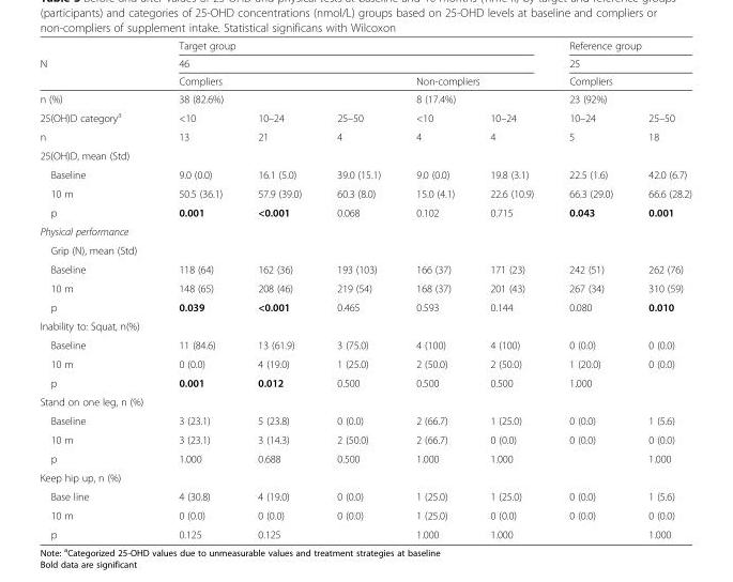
<table><thead><tr><td rowspan="5">N n (%) 25(OH)D categorya</td><td rowspan="2" colspan="5">Target group 46</td><td rowspan="4" colspan="2">Reference group 25 Compliers 23 (92%)</td></tr><tr></tr><tr><td rowspan="2" colspan="3">Compliers 38 (82.6%)</td><td rowspan="2" colspan="2">Non-compliers 8 (17.4%)</td></tr><tr></tr><tr><td>&lt;10</td><td>10–24</td><td>25–50</td><td>&lt;10</td><td>10–24</td><td>10–24</td><td>25–50</td></tr></thead><tbody><tr><td>n</td><td>13</td><td>21</td><td>4</td><td>4</td><td>4</td><td>5</td><td>18</td></tr><tr><td colspan="8">25(OH)D, mean (Std)</td></tr><tr><td>Baseline</td><td>9.0 (0.0)</td><td>16.1 (5.0)</td><td>39.0 (15.1)</td><td>9.0 (0.0)</td><td>19.8 (3.1)</td><td>22.5 (1.6)</td><td>42.0 (6.7)</td></tr><tr><td>10 m</td><td>50.5 (36.1)</td><td>57.9 (39.0)</td><td>60.3 (8.0)</td><td>15.0 (4.1)</td><td>22.6 (10.9)</td><td>66.3 (29.0)</td><td>66.6 (28.2)</td></tr><tr><td>p</td><td>0.001</td><td>&lt;0.001</td><td>0.068</td><td>0.102</td><td>0.715</td><td>0.043</td><td>0.001</td></tr><tr><td colspan="8">Physical performance</td></tr><tr><td colspan="8">Grip (N), mean (Std)</td></tr><tr><td>Baseline</td><td>118 (64)</td><td>162 (36)</td><td>193 (103)</td><td>166 (37)</td><td>171 (23)</td><td>242 (51)</td><td>262 (76)</td></tr><tr><td>10 m</td><td>148 (65)</td><td>208 (46)</td><td>219 (54)</td><td>168 (37)</td><td>201 (43)</td><td>267 (34)</td><td>310 (59)</td></tr><tr><td>p</td><td>0.039</td><td>&lt;0.001</td><td>0.465</td><td>0.593</td><td>0.144</td><td>0.080</td><td>0.010</td></tr><tr><td colspan="8">Inability to: Squat, n(%)</td></tr><tr><td>Baseline</td><td>11 (84.6)</td><td>13 (61.9)</td><td>3 (75.0)</td><td>4 (100)</td><td>4 (100)</td><td>0 (0.0)</td><td>0 (0.0)</td></tr><tr><td>10 m</td><td>0 (0.0)</td><td>4 (19.0)</td><td>1 (25.0)</td><td>2 (50.0)</td><td>2 (50.0)</td><td>1 (20.0)</td><td>0 (0.0)</td></tr><tr><td>p</td><td>0.001</td><td>0.012</td><td>0.500</td><td>0.500</td><td>0.500</td><td>1.000</td><td></td></tr><tr><td colspan="8">Stand on one leg, n (%)</td></tr><tr><td>Baseline</td><td>3 (23.1)</td><td>5 (23.8)</td><td>0 (0.0)</td><td>2 (66.7)</td><td>1 (25.0)</td><td>0 (0.0)</td><td>1 (5.6)</td></tr><tr><td>10 m</td><td>3 (23.1)</td><td>3 (14.3)</td><td>2 (50.0)</td><td>2 (66.7)</td><td>0 (0.0)</td><td>0 (0.0)</td><td>0 (0.0)</td></tr><tr><td>p</td><td>1.000</td><td>0.688</td><td>0.500</td><td>1.000</td><td>1.000</td><td></td><td>1.000</td></tr><tr><td colspan="8">Keep hip up, n (%)</td></tr><tr><td>Base line</td><td>4 (30.8)</td><td>4 (19.0)</td><td>0 (0.0)</td><td>1 (25.0)</td><td>1 (25.0)</td><td>0 (0.0)</td><td>1 (5.6)</td></tr><tr><td>10 m</td><td>0 (0.0)</td><td>0 (0.0)</td><td>0 (0.0)</td><td>1 (25.0)</td><td>0 (0.0)</td><td>0 (0.0)</td><td>0 (0.0)</td></tr><tr><td>p</td><td>0.125</td><td>0.125</td><td></td><td>1.000</td><td>1.000</td><td></td><td>1.000</td></tr></tbody></table>